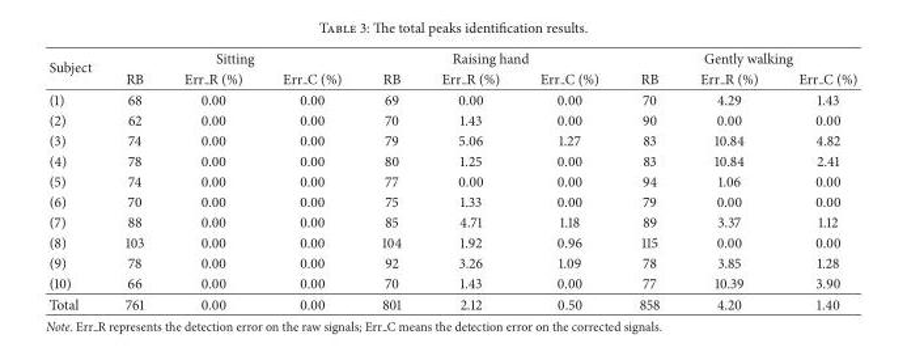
<table><thead><tr><td rowspan="2">Subject</td><td colspan="3">Sitting</td><td colspan="3">Raising hand</td><td colspan="3">Gently walking</td></tr><tr><td>RB</td><td>Err R (%)</td><td>Err C (%)</td><td>RB</td><td>Err R (%)</td><td>Err C (%)</td><td>RB</td><td>Err R (%)</td><td>Err C (%)</td></tr></thead><tbody><tr><td>(1)</td><td>68</td><td>0.00</td><td>0.00</td><td>69</td><td>0.00</td><td>0.00</td><td>70</td><td>4.29</td><td>1.43</td></tr><tr><td>(2)</td><td>62</td><td>0.00</td><td>0.00</td><td>70</td><td>1.43</td><td>0.00</td><td>90</td><td>0.00</td><td>0.00</td></tr><tr><td>(3)</td><td>74</td><td>0.00</td><td>0.00</td><td>79</td><td>5.06</td><td>1.27</td><td>83</td><td>10.84</td><td>4.82</td></tr><tr><td>(4)</td><td>78</td><td>0.00</td><td>0.00</td><td>80</td><td>1.25</td><td>0.00</td><td>83</td><td>10.84</td><td>2.41</td></tr><tr><td>(5)</td><td>74</td><td>0.00</td><td>0.00</td><td>77</td><td>0.00</td><td>0.00</td><td>94</td><td>1.06</td><td>0.00</td></tr><tr><td>(6)</td><td>70</td><td>0.00</td><td>0.00</td><td>75</td><td>1.33</td><td>0.00</td><td>79</td><td>0.00</td><td>0.00</td></tr><tr><td>(7)</td><td>88</td><td>0.00</td><td>0.00</td><td>85</td><td>4.71</td><td>1.18</td><td>89</td><td>3.37</td><td>1.12</td></tr><tr><td>(8)</td><td>103</td><td>0.00</td><td>0.00</td><td>104</td><td>1.92</td><td>0.96</td><td>115</td><td>0.00</td><td>0.00</td></tr><tr><td>(9)</td><td>78</td><td>0.00</td><td>0.00</td><td>92</td><td>3.26</td><td>1.09</td><td>78</td><td>3.85</td><td>1.28</td></tr><tr><td>(10)</td><td>66</td><td>0.00</td><td>0.00</td><td>70</td><td>1.43</td><td>0.00</td><td>77</td><td>10.39</td><td>3.90</td></tr><tr><td>Total</td><td>761</td><td>0.00</td><td>0.00</td><td>801</td><td>2.12</td><td>0.50</td><td>858</td><td>4.20</td><td>1.40</td></tr></tbody></table>